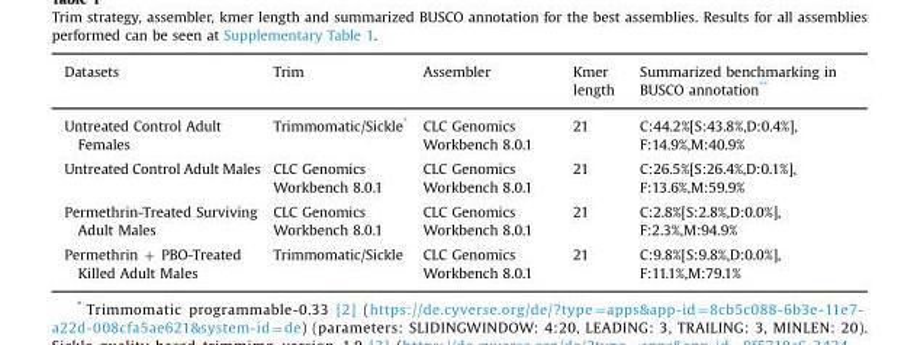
<table><thead><tr><td>Datasets</td><td>Trim</td><td>Assembler</td><td>Kmer length</td><td>Summarized benchmarking in BUSCO annotation**</td></tr></thead><tbody><tr><td rowspan="2">Untreated Control Adult Females</td><td rowspan="2">Trimmomatic/Sickle*</td><td rowspan="2">CLC Genomics Workbench 8.0.1</td><td rowspan="2">21</td><td>C:44.2%[S:43.8%,D:0.4%],</td></tr><tr><td>F:14.9%,M:40.9%</td></tr><tr><td rowspan="2">Untreated Control Adult Males</td><td rowspan="2">CLC Genomics Workbench 8.0.1</td><td rowspan="2">CLC Genomics Workbench 8.0.1</td><td rowspan="2">21</td><td>C:26.5%[S:26.4%,D:0.1%],</td></tr><tr><td>F:13.6%,M:59.9%</td></tr><tr><td rowspan="2">Permethrin-Treated Surviving Adult Males</td><td rowspan="2">CLC Genomics Workbench 8.0.1</td><td rowspan="2">CLC Genomics Workbench 8.0.1</td><td rowspan="2">21</td><td>C:2.8%[S:2.8%,D:0.0%],</td></tr><tr><td>F:2.3%,M:94.9%</td></tr><tr><td rowspan="2">Permethrin + PBO-Treated Killed Adult Males</td><td rowspan="2">Trimmomatic/Sickle</td><td rowspan="2">CLC Genomics Workbench 8.0.1</td><td rowspan="2">21</td><td>C:9.8%[S:9.8%,D:0.0%],</td></tr><tr><td>F:11.1%,M:79.1%</td></tr></tbody></table>